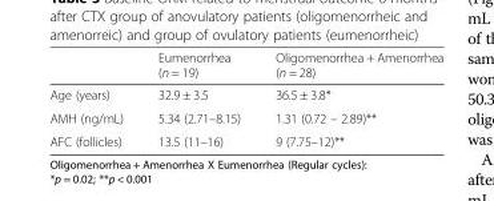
<table><thead><tr><td></td><td>Eumenorrhea (n = 19)</td><td>Oligomenorrhea + Amenorrhea (n = 28)</td></tr></thead><tbody><tr><td>Age (years)</td><td>32.9 ± 3.5</td><td>36.5 ± 3.8*</td></tr><tr><td>AMH (ng/mL)</td><td>5.34 (2.71–8.15)</td><td>1.31 (0.72 – 2.89)**</td></tr><tr><td>AFC (follicles)</td><td>13.5 (11–16)</td><td>9 (7.75–12)**</td></tr></tbody></table>